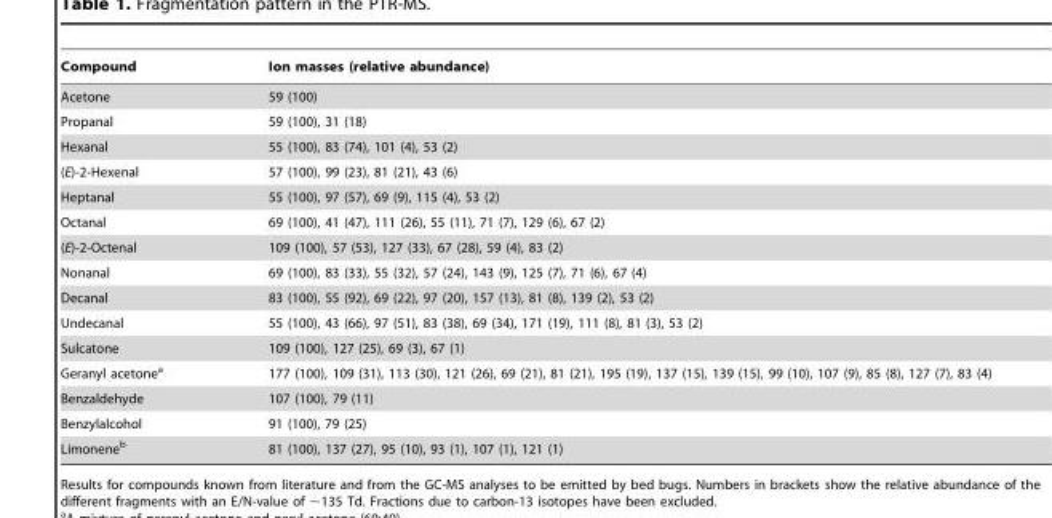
<table><thead><tr><td>Compound</td><td>Ion masses (relative abundance)</td></tr></thead><tbody><tr><td>Acetone</td><td>59 (100)</td></tr><tr><td>Propanal</td><td>59 (100), 31 (18)</td></tr><tr><td>Hexanal</td><td>55 (100), 83 (74), 101 (4), 53 (2)</td></tr><tr><td>(E)-2-Hexenal</td><td>57 (100), 99 (23), 81 (21), 43 (6)</td></tr><tr><td>Heptanal</td><td>55 (100), 97 (57), 69 (9), 115 (4), 53 (2)</td></tr><tr><td>Octanal</td><td>69 (100), 41 (47), 111 (26), 55 (11), 71 (7), 129 (6), 67 (2)</td></tr><tr><td>(E)-2-Octenal</td><td>109 (100), 57 (53), 127 (33), 67 (28), 59 (4), 83 (2)</td></tr><tr><td>Nonanal</td><td>69 (100), 83 (33), 55 (32), 57 (24), 143 (9), 125 (7), 71 (6), 67 (4)</td></tr><tr><td>Decanal</td><td>83 (100), 55 (92), 69 (22), 97 (20), 157 (13), 81 (8), 139 (2), 53 (2)</td></tr><tr><td>Undecanal</td><td>55 (100), 43 (66), 97 (51), 83 (38), 69 (34), 171 (19), 111 (8), 81 (3), 53 (2)</td></tr><tr><td>Sulcatone</td><td>109 (100), 127 (25), 69 (3), 67 (1)</td></tr><tr><td>Geranyl acetone<sup>a</sup></td><td>177 (100), 109 (31), 113 (30), 121 (26), 69 (21), 81 (21), 195 (19), 137 (15), 139 (15), 99 (10), 107 (9), 85 (8), 127 (7), 83 (4)</td></tr><tr><td>Benzaldehyde</td><td>107 (100), 79 (11)</td></tr><tr><td>Benzylalcohol</td><td>91 (100), 79 (25)</td></tr><tr><td>Limonene<sup>b</sup></td><td>81 (100), 137 (27), 95 (10), 93 (1), 107 (1), 121 (1)</td></tr></tbody></table>